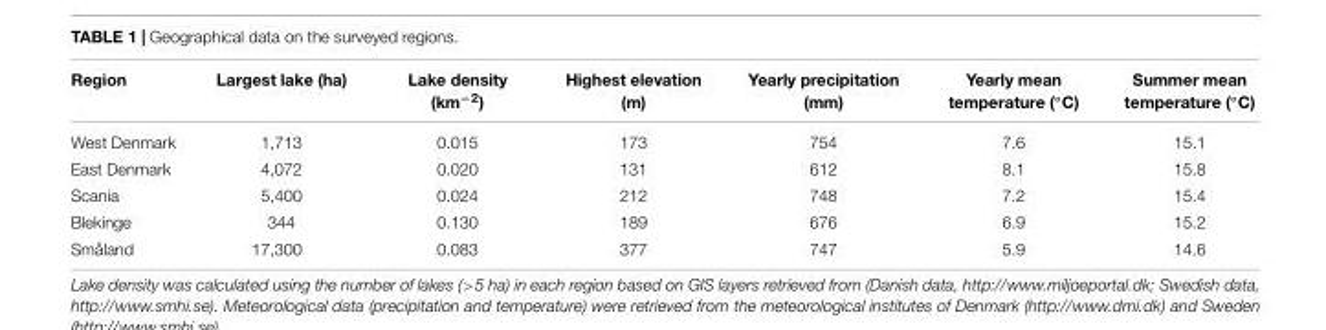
<table><thead><tr><td>Region</td><td>Largest lake (ha)</td><td>Lake density (km<sup>−2</sup>)</td><td>Highest elevation (m)</td><td>Yearly precipitation (mm)</td><td>Yearly mean temperature (◦C)</td><td>Summer mean temperature (◦C)</td></tr></thead><tbody><tr><td>West Denmark</td><td>1,713</td><td>0.015</td><td>173</td><td>754</td><td>7.6</td><td>15.1</td></tr><tr><td>East Denmark</td><td>4,072</td><td>0.020</td><td>131</td><td>612</td><td>8.1</td><td>15.8</td></tr><tr><td>Scania</td><td>5,400</td><td>0.024</td><td>212</td><td>748</td><td>7.2</td><td>15.4</td></tr><tr><td>Blekinge</td><td>344</td><td>0.130</td><td>189</td><td>676</td><td>6.9</td><td>15.2</td></tr><tr><td>Småland</td><td>17,300</td><td>0.083</td><td>377</td><td>747</td><td>5.9</td><td>14.6</td></tr></tbody></table>